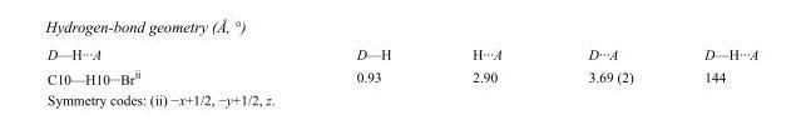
<table><tbody><tr><td>D—H···A</td><td>D—H</td><td>H···A</td><td>D···A</td><td>D—H···A</td></tr><tr><td>C10—H10···Br<sup>ii</sup></td><td>0.93</td><td>2.90</td><td>3.69 (2)</td><td>144</td></tr></tbody></table>